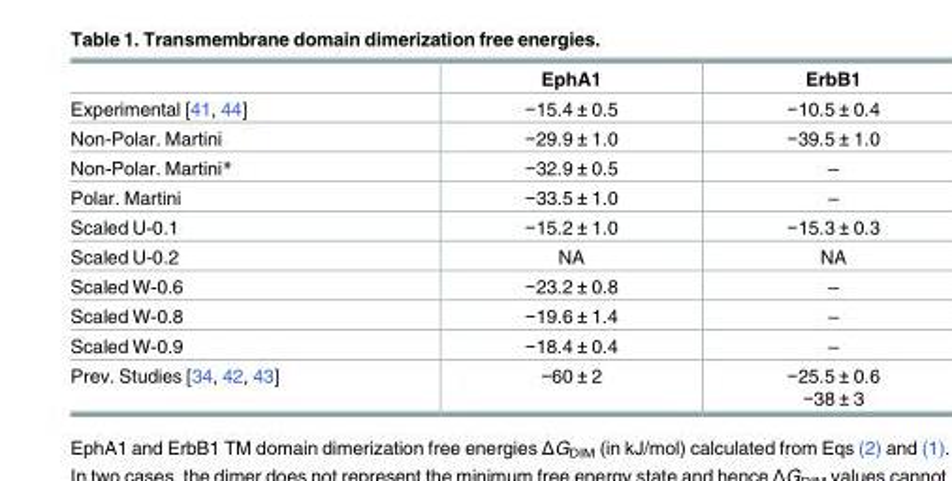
<table><thead><tr><td></td><td>EphA1</td><td>ErbB1</td></tr></thead><tbody><tr><td>Experimental [41, 44]</td><td>−15.4 ± 0.5</td><td>−10.5 ± 0.4</td></tr><tr><td>Non-Polar. Martini</td><td>−29.9 ± 1.0</td><td>−39.5 ± 1.0</td></tr><tr><td>Non-Polar. Martini*</td><td>−32.9 ± 0.5</td><td>–</td></tr><tr><td>Polar. Martini</td><td>−33.5 ± 1.0</td><td>–</td></tr><tr><td>Scaled U-0.1</td><td>−15.2 ± 1.0</td><td>−15.3 ± 0.3</td></tr><tr><td>Scaled U-0.2</td><td>NA</td><td>NA</td></tr><tr><td>Scaled W-0.6</td><td>−23.2 ± 0.8</td><td>–</td></tr><tr><td>Scaled W-0.8</td><td>−19.6 ± 1.4</td><td>–</td></tr><tr><td>Scaled W-0.9</td><td>−18.4 ± 0.4</td><td>–</td></tr><tr><td>Prev. Studies [34, 42, 43]</td><td>−60 ± 2</td><td>−25.5 ± 0.6 −38 ± 3</td></tr></tbody></table>